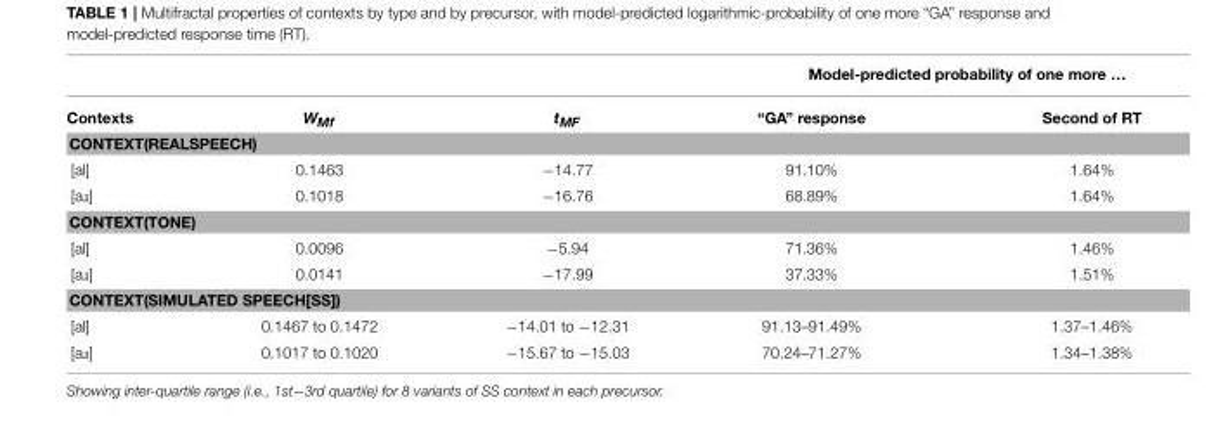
<table><thead><tr><td rowspan="2">Contexts</td><td rowspan="2">W<sub>Mf</sub></td><td rowspan="2">t<sub>MF</sub></td><td colspan="2">Model-predicted probability of one more …</td></tr><tr><td>“GA” response</td><td>Second of RT</td></tr></thead><tbody><tr><td colspan="5">CONTEXT(REALSPEECH)</td></tr><tr><td>[al]</td><td>0.1463</td><td>−14.77</td><td>91.10%</td><td>1.64%</td></tr><tr><td>[aô]</td><td>0.1018</td><td>−16.76</td><td>68.89%</td><td>1.64%</td></tr><tr><td colspan="5">CONTEXT(TONE)</td></tr><tr><td>[al]</td><td>0.0096</td><td>−5.94</td><td>71.36%</td><td>1.46%</td></tr><tr><td>[aô]</td><td>0.0141</td><td>−17.99</td><td>37.33%</td><td>1.51%</td></tr><tr><td colspan="5">CONTEXT(SIMULATED SPEECH[SS])</td></tr><tr><td>[al]</td><td>0.1467 to 0.1472</td><td>−14.01 to −12.31</td><td>91.13–91.49%</td><td>1.37–1.46%</td></tr><tr><td>[aô]</td><td>0.1017 to 0.1020</td><td>−15.67 to −15.03</td><td>70.24–71.27%</td><td>1.34–1.38%</td></tr></tbody></table>